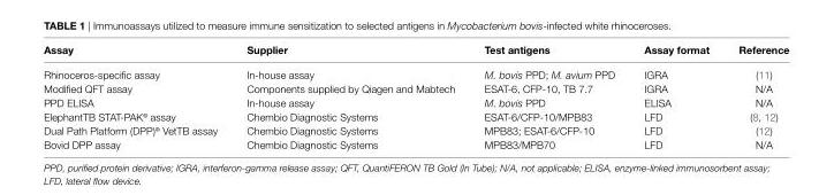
<table><thead><tr><td>assay</td><td>supplier</td><td>Test antigens</td><td>assay format</td><td>reference</td></tr></thead><tbody><tr><td>Rhinoceros-specific assay</td><td>In-house assay</td><td>M. bovis PPD; M. avium PPD</td><td>IGRA</td><td>(11)</td></tr><tr><td>Modified QFT assay</td><td>Components supplied by Qiagen and Mabtech</td><td>ESAT-6, CFP-10, TB 7.7</td><td>IGRA</td><td>N/A</td></tr><tr><td>PPD ELISA</td><td>In-house assay</td><td>M. bovis PPD</td><td>ELISA</td><td>N/A</td></tr><tr><td>ElephantTB STAT-PAK<sup>®</sup> assay</td><td>Chembio Diagnostic Systems</td><td>ESAT-6/CFP-10/MPB83</td><td>LFD</td><td>(8, 12)</td></tr><tr><td>Dual Path Platform (DPP)<sup>®</sup> VetTB assay</td><td>Chembio Diagnostic Systems</td><td>MPB83; ESAT-6/CFP-10</td><td>LFD</td><td>(12)</td></tr><tr><td>Bovid DPP assay</td><td>Chembio Diagnostic Systems</td><td>MPB83/MPB70</td><td>LFD</td><td>N/A</td></tr></tbody></table>